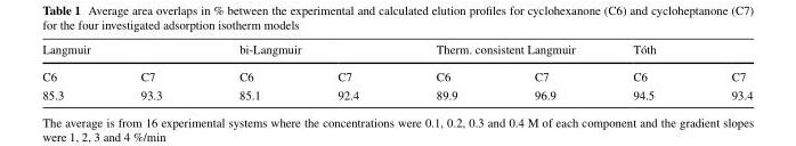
<table><thead><tr><td colspan="2">Langmuir</td><td colspan="2">bi-Langmuir</td><td colspan="2">Therm. consistent Langmuir</td><td colspan="2">Tóth</td></tr><tr><td>C6</td><td>C7</td><td>C6</td><td>C7</td><td>C6</td><td>C7</td><td>C6</td><td>C7</td></tr></thead><tbody><tr><td>85.3</td><td>93.3</td><td>85.1</td><td>92.4</td><td>89.9</td><td>96.9</td><td>94.5</td><td>93.4</td></tr></tbody></table>